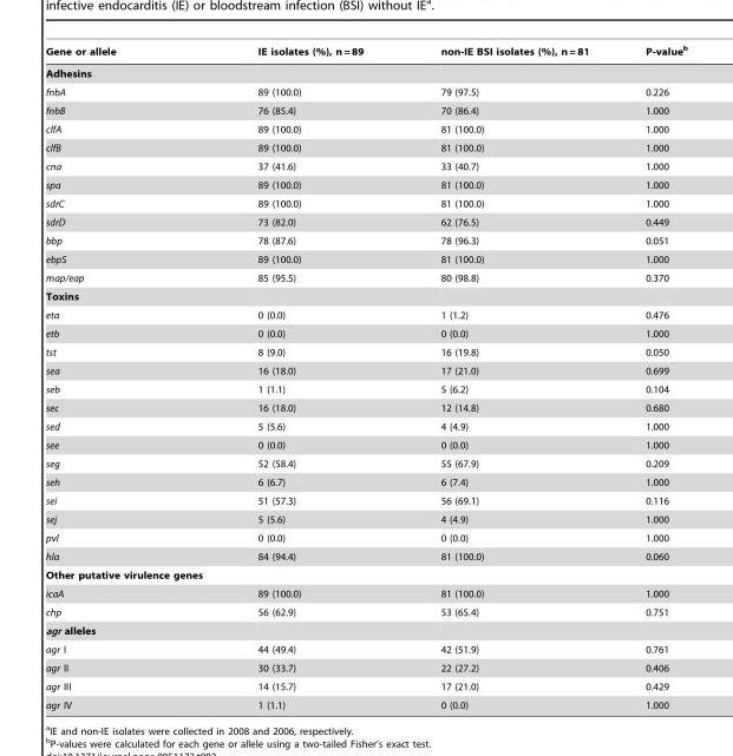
<table><thead><tr><td>Gene or allele</td><td>IE isolates (%), n = 89</td><td>non-IE BSI isolates (%), n = 81</td><td>P-value<sup>b</sup></td></tr></thead><tbody><tr><td colspan="4">Adhesins</td></tr><tr><td>fnbA</td><td>89 (100.0)</td><td>79 (97.5)</td><td>0.226</td></tr><tr><td>fnbB</td><td>76 (85.4)</td><td>70 (86.4)</td><td>1.000</td></tr><tr><td>clfA</td><td>89 (100.0)</td><td>81 (100.0)</td><td>1.000</td></tr><tr><td>clfB</td><td>89 (100.0)</td><td>81 (100.0)</td><td>1.000</td></tr><tr><td>cna</td><td>37 (41.6)</td><td>33 (40.7)</td><td>1.000</td></tr><tr><td>spa</td><td>89 (100.0)</td><td>81 (100.0)</td><td>1.000</td></tr><tr><td>sdrC</td><td>89 (100.0)</td><td>81 (100.0)</td><td>1.000</td></tr><tr><td>sdrD</td><td>73 (82.0)</td><td>62 (76.5)</td><td>0.449</td></tr><tr><td>bbp</td><td>78 (87.6)</td><td>78 (96.3)</td><td>0.051</td></tr><tr><td>ebpS</td><td>89 (100.0)</td><td>81 (100.0)</td><td>1.000</td></tr><tr><td>map/eap</td><td>85 (95.5)</td><td>80 (98.8)</td><td>0.370</td></tr><tr><td colspan="4">Toxins</td></tr><tr><td>eta</td><td>0 (0.0)</td><td>1 (1.2)</td><td>0.476</td></tr><tr><td>etb</td><td>0 (0.0)</td><td>0 (0.0)</td><td>1.000</td></tr><tr><td>tst</td><td>8 (9.0)</td><td>16 (19.8)</td><td>0.050</td></tr><tr><td>sea</td><td>16 (18.0)</td><td>17 (21.0)</td><td>0.699</td></tr><tr><td>seb</td><td>1 (1.1)</td><td>5 (6.2)</td><td>0.104</td></tr><tr><td>sec</td><td>16 (18.0)</td><td>12 (14.8)</td><td>0.680</td></tr><tr><td>sed</td><td>5 (5.6)</td><td>4 (4.9)</td><td>1.000</td></tr><tr><td>see</td><td>0 (0.0)</td><td>0 (0.0)</td><td>1.000</td></tr><tr><td>seg</td><td>52 (58.4)</td><td>55 (67.9)</td><td>0.209</td></tr><tr><td>seh</td><td>6 (6.7)</td><td>6 (7.4)</td><td>1.000</td></tr><tr><td>sei</td><td>51 (57.3)</td><td>56 (69.1)</td><td>0.116</td></tr><tr><td>sej</td><td>5 (5.6)</td><td>4 (4.9)</td><td>1.000</td></tr><tr><td>pvl</td><td>0 (0.0)</td><td>0 (0.0)</td><td>1.000</td></tr><tr><td>hla</td><td>84 (94.4)</td><td>81 (100.0)</td><td>0.060</td></tr><tr><td colspan="4">Other putative virulence genes</td></tr><tr><td>icaA</td><td>89 (100.0)</td><td>81 (100.0)</td><td>1.000</td></tr><tr><td>chp</td><td>56 (62.9)</td><td>53 (65.4)</td><td>0.751</td></tr><tr><td colspan="4">agr alleles</td></tr><tr><td>agr I</td><td>44 (49.4)</td><td>42 (51.9)</td><td>0.761</td></tr><tr><td>agr II</td><td>30 (33.7)</td><td>22 (27.2)</td><td>0.406</td></tr><tr><td>agr III</td><td>14 (15.7)</td><td>17 (21.0)</td><td>0.429</td></tr><tr><td>agr IV</td><td>1 (1.1)</td><td>0 (0.0)</td><td>1.000</td></tr></tbody></table>